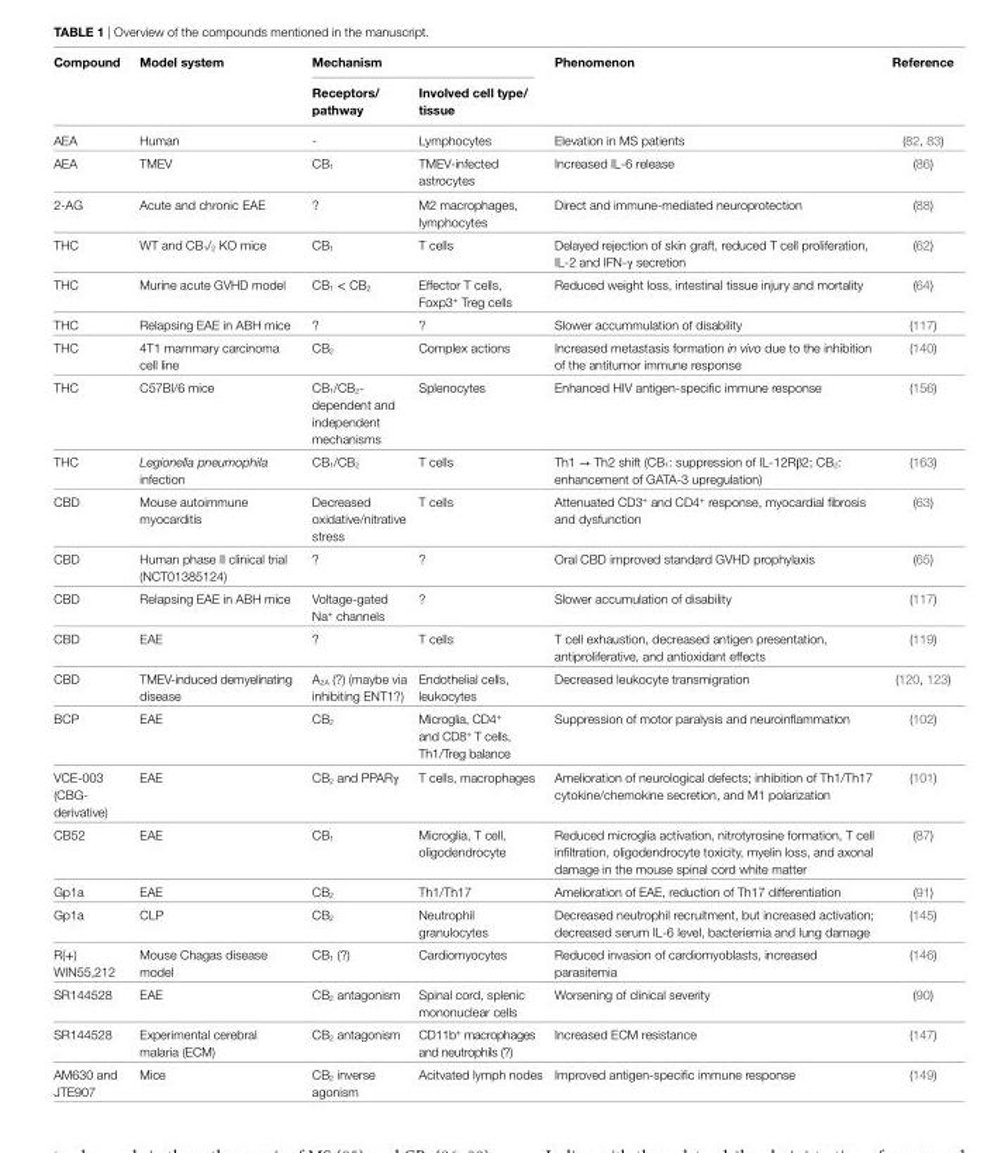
<table><thead><tr><td rowspan="2">Compound</td><td rowspan="2">Model system</td><td colspan="2">Mechanism</td><td rowspan="2">Phenomenon</td><td rowspan="2">Reference</td></tr><tr><td>Receptors/ pathway</td><td>involved cell type/ tissue</td></tr></thead><tbody><tr><td>AEA</td><td>Human</td><td>-</td><td>Lymphocytes</td><td>Elevation in MS patients</td><td>(82, 83)</td></tr><tr><td>AEA</td><td>TMEV</td><td>CB<sub>1</sub></td><td>TMEV-infected astrocytes</td><td>Increased IL-6 release</td><td>(86)</td></tr><tr><td>2-AG</td><td>Acute and chronic EAE</td><td>?</td><td>M2 macrophages, lymphocytes</td><td>Direct and immune-mediated neuroprotection</td><td>(88)</td></tr><tr><td>THC</td><td>WT and CB<sub>1</sub>/<sub>2</sub> KO mice</td><td>CB<sub>1</sub></td><td>T cells</td><td>Delayed rejection of skin graft, reduced T cell proliferation, IL-2 and IFN-γ secretion</td><td>(62)</td></tr><tr><td>THC</td><td>Murine acute GVHD model</td><td>CB<sub>1</sub> &lt; CB<sub>2</sub></td><td>Effector T cells, Foxp3<sup>+</sup> Treg cells</td><td>Reduced weight loss, intestinal tissue injury and mortality</td><td>(64)</td></tr><tr><td>THC</td><td>Relapsing EAE in ABH mice</td><td>?</td><td>?</td><td>Slower accummulation of disability</td><td>(117)</td></tr><tr><td>THC</td><td>4T1 mammary carcinoma cell line</td><td>CB<sub>2</sub></td><td>Complex actions</td><td>Increased metastasis formation in vivo due to the inhibition of the antitumor immune response</td><td>(140)</td></tr><tr><td>THC</td><td>C57Bl/6 mice</td><td>CB<sub>1</sub>/CB<sub>2</sub>- dependent and independent mechanisms</td><td>Splenocytes</td><td>Enhanced HIV antigen-specific immune response</td><td>(156)</td></tr><tr><td>THC</td><td>Legionella pneumophila infection</td><td>CB<sub>1</sub>/CB<sub>2</sub></td><td>T cells</td><td>Th1 → Th2 shift (CB<sub>1</sub>: suppression of IL-12Rβ2; CB<sub>2</sub>: enhancement of GATA-3 upregulation)</td><td>(163)</td></tr><tr><td>CBD</td><td>Mouse autoimmune myocarditis</td><td>Decreased oxidative/nitrative stress</td><td>T cells</td><td>Attenuated CD3<sup>+</sup> and CD4<sup>+</sup> response, myocardial fibrosis and dysfunction</td><td>(63)</td></tr><tr><td>CBD</td><td>Human phase II clinical trial (NCT01385124)</td><td>?</td><td>?</td><td>Oral CBD improved standard GVHD prophylaxis</td><td>(65)</td></tr><tr><td>CBD</td><td>Relapsing EAE in ABH mice</td><td>Voltage-gated Na<sup>+</sup> channels</td><td>?</td><td>Slower accumulation of disability</td><td>(117)</td></tr><tr><td>CBD</td><td>EAE</td><td>?</td><td>T cells</td><td>T cell exhaustion, decreased antigen presentation, antiproliferative, and antioxidant effects</td><td>(119)</td></tr><tr><td>CBD</td><td>TMEV-induced demyelinating disease</td><td>A<sub>2A</sub> (?) (maybe via inhibiting ENT1?)</td><td>Endothelial cells, leukocytes</td><td>Decreased leukocyte transmigration</td><td>(120, 123)</td></tr><tr><td>BCP</td><td>EAE</td><td>CB<sub>2</sub></td><td>Microglia, CD4<sup>+</sup> and CD8<sup>+</sup> T cells, Th1/Treg balance</td><td>Suppression of motor paralysis and neuroinflammation</td><td>(102)</td></tr><tr><td>VCE-003 (CBG- derivative)</td><td>EAE</td><td>CB<sub>2</sub> and PPARγ</td><td>T cells, macrophages</td><td>Amelioration of neurological defects; inhibition of Th1/Th17 cytokine/chemokine secretion, and M1 polarization</td><td>(101)</td></tr><tr><td>CB52</td><td>EAE</td><td>CB<sub>1</sub></td><td>Microglia, T cell, oligodendrocyte</td><td>Reduced microglia activation, nitrotyrosine formation, T cell infiltration, oligodendrocyte toxicity, myelin loss, and axonal damage in the mouse spinal cord white matter</td><td>(87)</td></tr><tr><td>Gp1a</td><td>EAE</td><td>CB<sub>2</sub></td><td>Th1/Th17</td><td>Amelioration of EAE, reduction of Th17 differentiation</td><td>(91)</td></tr><tr><td>Gp1a</td><td>CLP</td><td>CB<sub>2</sub></td><td>Neutrophil granulocytes</td><td>Decreased neutrophil recruitment, but increased activation; decreased serum IL-6 level, bacteriemia and lung damage</td><td>(145)</td></tr><tr><td>R(+) WIN55,212</td><td>Mouse Chagas disease model</td><td>CB<sub>1</sub> (?)</td><td>Cardiomyocytes</td><td>Reduced invasion of cardiomyoblasts, increased parasitemia</td><td>(146)</td></tr><tr><td>SR144528</td><td>EAE</td><td>CB<sub>2</sub> antagonism</td><td>Spinal cord, splenic mononuclear cells</td><td>Worsening of clinical severity</td><td>(90)</td></tr><tr><td>SR144528</td><td>Experimental cerebral malaria (ECM)</td><td>CB<sub>2</sub> antagonism</td><td>CD11b<sup>+</sup> macrophages and neutrophils (?)</td><td>Increased ECM resistance</td><td>(147)</td></tr><tr><td>AM630 and JTE907</td><td>Mice</td><td>CB<sub>2</sub> inverse agonism</td><td>Acitvated lymph nodes</td><td>Improved antigen-specific immune response</td><td>(149)</td></tr></tbody></table>